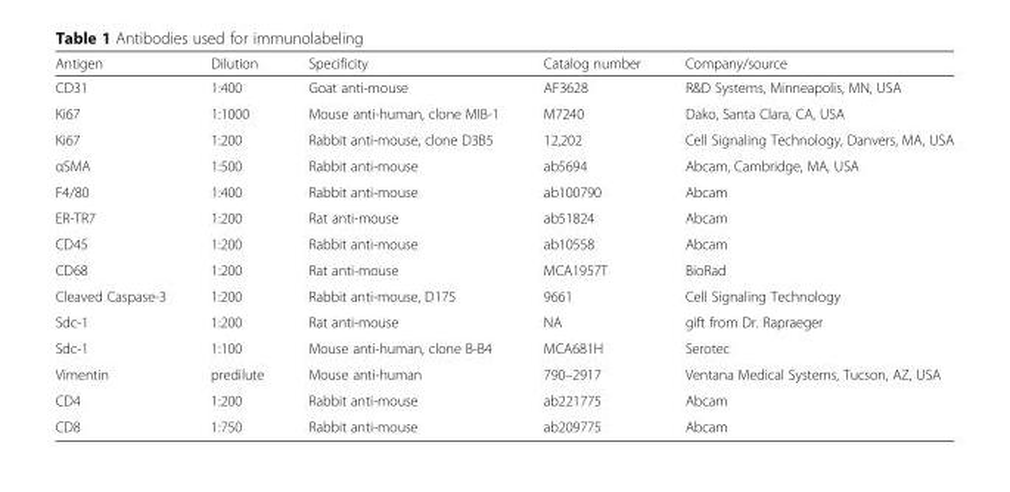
<table><thead><tr><td>Antigen</td><td>Dilution</td><td>Specificity</td><td>Catalog number</td><td>Company/source</td></tr></thead><tbody><tr><td>CD31</td><td>1:400</td><td>Goat anti-mouse</td><td>AF3628</td><td>R&amp;D Systems, Minneapolis, MN, USA</td></tr><tr><td>Ki67</td><td>1:1000</td><td>Mouse anti-human, clone MIB-1</td><td>M7240</td><td>Dako, Santa Clara, CA, USA</td></tr><tr><td>Ki67</td><td>1:200</td><td>Rabbit anti-mouse, clone D3B5</td><td>12,202</td><td>Cell Signaling Technology, Danvers, MA, USA</td></tr><tr><td>αSMA</td><td>1:500</td><td>Rabbit anti-mouse</td><td>ab5694</td><td>Abcam, Cambridge, MA, USA</td></tr><tr><td>F4/80</td><td>1:400</td><td>Rabbit anti-mouse</td><td>ab100790</td><td>Abcam</td></tr><tr><td>ER-TR7</td><td>1:200</td><td>Rat anti-mouse</td><td>ab51824</td><td>Abcam</td></tr><tr><td>CD45</td><td>1:200</td><td>Rabbit anti-mouse</td><td>ab10558</td><td>Abcam</td></tr><tr><td>CD68</td><td>1:200</td><td>Rat anti-mouse</td><td>MCA1957T</td><td>BioRad</td></tr><tr><td>Cleaved Caspase-3</td><td>1:200</td><td>Rabbit anti-mouse, D175</td><td>9661</td><td>Cell Signaling Technology</td></tr><tr><td>Sdc-1</td><td>1:200</td><td>Rat anti-mouse</td><td>NA</td><td>gift from Dr. Rapraeger</td></tr><tr><td>Sdc-1</td><td>1:100</td><td>Mouse anti-human, clone B-B4</td><td>MCA681H</td><td>Serotec</td></tr><tr><td>Vimentin</td><td>predilute</td><td>Mouse anti-human</td><td>790–2917</td><td>Ventana Medical Systems, Tucson, AZ, USA</td></tr><tr><td>CD4</td><td>1:200</td><td>Rabbit anti-mouse</td><td>ab221775</td><td>Abcam</td></tr><tr><td>CD8</td><td>1:750</td><td>Rabbit anti-mouse</td><td>ab209775</td><td>Abcam</td></tr></tbody></table>